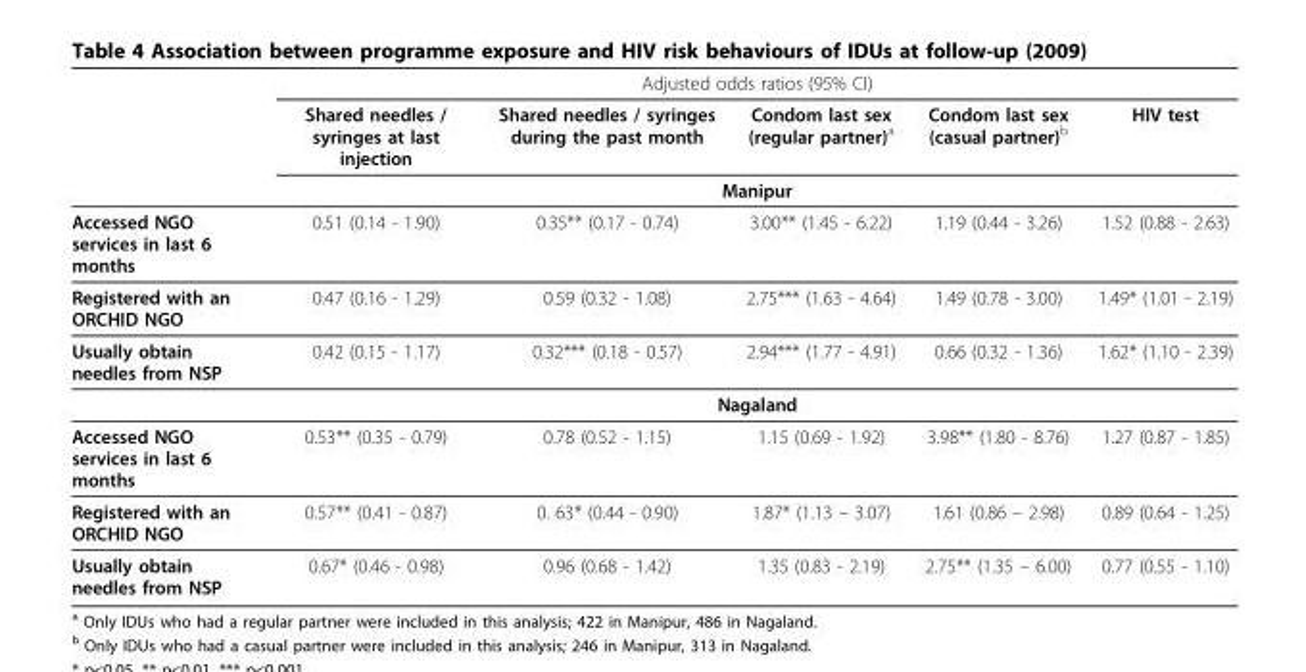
<table><thead><tr><td rowspan="3"></td><td colspan="5">Adjusted odds ratios (95% CI)</td></tr><tr><td>Shared needles / syringes at last injection</td><td>Shared needles / syringes during the past month</td><td>Condom last sex (regular partner)<sup>a</sup></td><td>Condom last sex (casual partner)<sup>b</sup></td><td>HIV test</td></tr><tr><td colspan="5">Manipur</td></tr></thead><tbody><tr><td>Accessed NGO services in last 6 months</td><td>0.51 (0.14 - 1.90)</td><td>0.35** (0.17 - 0.74)</td><td>3.00** (1.45 - 6.22)</td><td>1.19 (0.44 - 3.26)</td><td>1.52 (0.88 - 2.63)</td></tr><tr><td>Registered with an ORCHID NGO</td><td>0.47 (0.16 - 1.29)</td><td>0.59 (0.32 - 1.08)</td><td>2.75*** (1.63 - 4.64)</td><td>1.49 (0.78 - 3.00)</td><td>1.49* (1.01 - 2.19)</td></tr><tr><td rowspan="2">Usually obtain needles from NSP</td><td>0.42 (0.15 - 1.17)</td><td>0.32*** (0.18 - 0.57)</td><td>2.94*** (1.77 - 4.91)</td><td>0.66 (0.32 - 1.36)</td><td>1.62* (1.10 - 2.39)</td></tr><tr><td colspan="5">Nagaland</td></tr><tr><td>Accessed NGO services in last 6 months</td><td>0.53** (0.35 - 0.79)</td><td>0.78 (0.52 - 1.15)</td><td>1.15 (0.69 - 1.92)</td><td>3.98** (1.80 - 8.76)</td><td>1.27 (0.87 - 1.85)</td></tr><tr><td>Registered with an ORCHID NGO</td><td>0.57** (0.41 - 0.87)</td><td>0. 63* (0.44 - 0.90)</td><td>1.87* (1.13 – 3.07)</td><td>1.61 (0.86 – 2.98)</td><td>0.89 (0.64 - 1.25)</td></tr><tr><td>Usually obtain needles from NSP</td><td>0.67* (0.46 - 0.98)</td><td>0.96 (0.68 - 1.42)</td><td>1.35 (0.83 - 2.19)</td><td>2.75** (1.35 – 6.00)</td><td>0.77 (0.55 - 1.10)</td></tr></tbody></table>